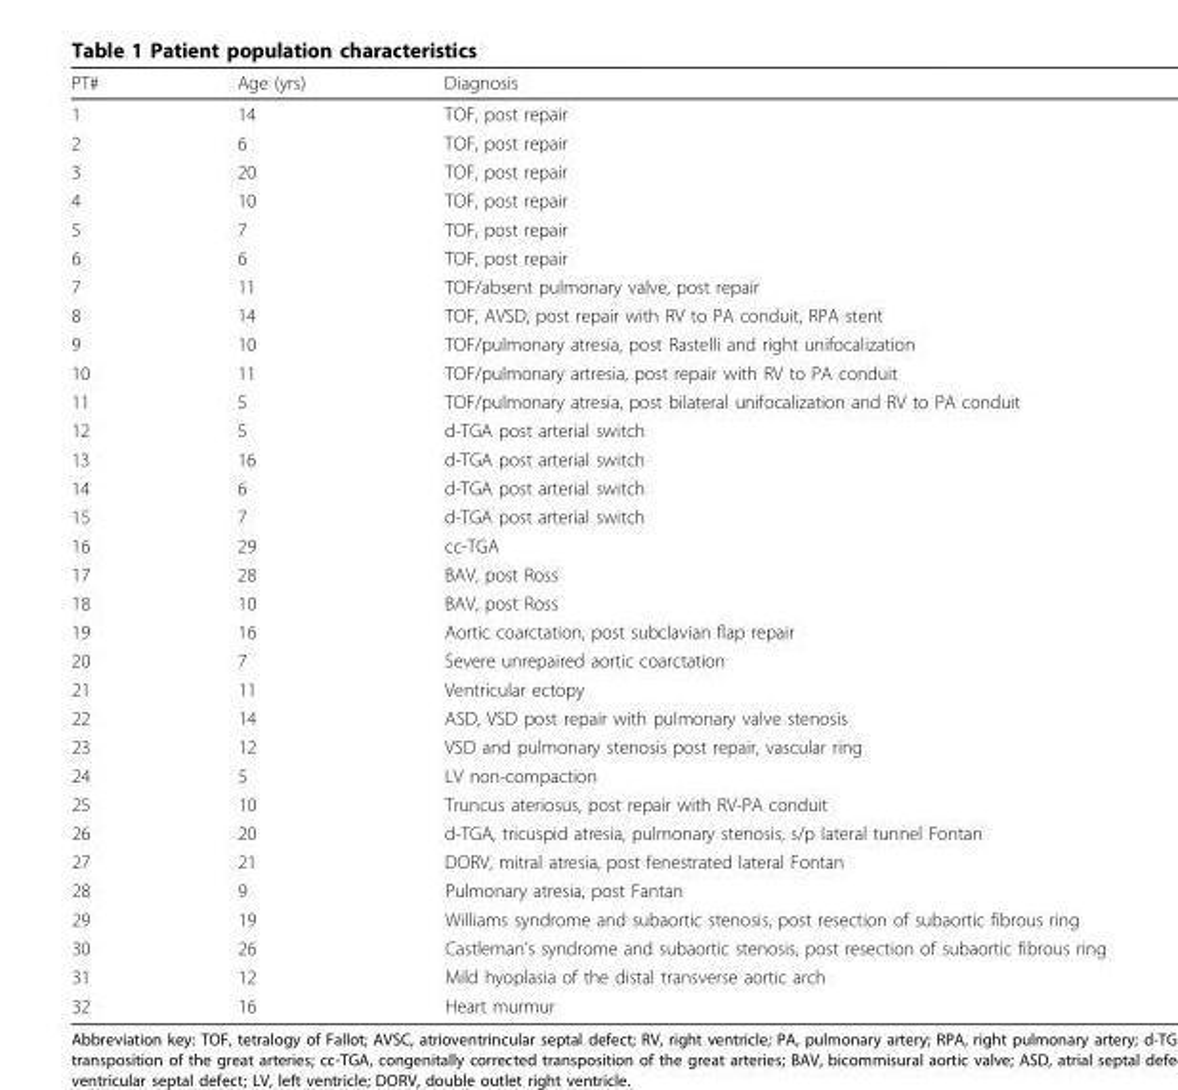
<table><thead><tr><td>PT#</td><td>Age (yrs)</td><td>Diagnosis</td></tr></thead><tbody><tr><td>1</td><td>14</td><td>TOF, post repair</td></tr><tr><td>2</td><td>6</td><td>TOF, post repair</td></tr><tr><td>3</td><td>20</td><td>TOF, post repair</td></tr><tr><td>4</td><td>10</td><td>TOF, post repair</td></tr><tr><td>5</td><td>7</td><td>TOF, post repair</td></tr><tr><td>6</td><td>6</td><td>TOF, post repair</td></tr><tr><td>7</td><td>11</td><td>TOF/absent pulmonary valve, post repair</td></tr><tr><td>8</td><td>14</td><td>TOF, AVSD, post repair with RV to PA conduit, RPA stent</td></tr><tr><td>9</td><td>10</td><td>TOF/pulmonary atresia, post Rastelli and right unifocalization</td></tr><tr><td>10</td><td>11</td><td>TOF/pulmonary artresia, post repair with RV to PA conduit</td></tr><tr><td>11</td><td>5</td><td>TOF/pulmonary atresia, post bilateral unifocalization and RV to PA conduit</td></tr><tr><td>12</td><td>5</td><td>d-TGA post arterial switch</td></tr><tr><td>13</td><td>16</td><td>d-TGA post arterial switch</td></tr><tr><td>14</td><td>6</td><td>d-TGA post arterial switch</td></tr><tr><td>15</td><td>7</td><td>d-TGA post arterial switch</td></tr><tr><td>16</td><td>29</td><td>cc-TGA</td></tr><tr><td>17</td><td>28</td><td>BAV, post Ross</td></tr><tr><td>18</td><td>10</td><td>BAV, post Ross</td></tr><tr><td>19</td><td>16</td><td>Aortic coarctation, post subclavian flap repair</td></tr><tr><td>20</td><td>7</td><td>Severe unrepaired aortic coarctation</td></tr><tr><td>21</td><td>11</td><td>Ventricular ectopy</td></tr><tr><td>22</td><td>14</td><td>ASD, VSD post repair with pulmonary valve stenosis</td></tr><tr><td>23</td><td>12</td><td>VSD and pulmonary stenosis post repair, vascular ring</td></tr><tr><td>24</td><td>5</td><td>LV non-compaction</td></tr><tr><td>25</td><td>10</td><td>Truncus ateriosus, post repair with RV-PA conduit</td></tr><tr><td>26</td><td>20</td><td>d-TGA, tricuspid atresia, pulmonary stenosis, s/p lateral tunnel Fontan</td></tr><tr><td>27</td><td>21</td><td>DORV, mitral atresia, post fenestrated lateral Fontan</td></tr><tr><td>28</td><td>9</td><td>Pulmonary atresia, post Fantan</td></tr><tr><td>29</td><td>19</td><td>Williams syndrome and subaortic stenosis, post resection of subaortic fibrous ring</td></tr><tr><td>30</td><td>26</td><td>Castleman’s syndrome and subaortic stenosis, post resection of subaortic fibrous ring</td></tr><tr><td>31</td><td>12</td><td>Mild hyoplasia of the distal transverse aortic arch</td></tr><tr><td>32</td><td>16</td><td>Heart murmur</td></tr></tbody></table>